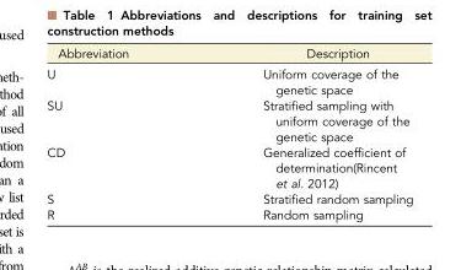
<table><thead><tr><td>Abbreviation</td><td>Description</td></tr></thead><tbody><tr><td>U</td><td>Uniform coverage of the genetic space</td></tr><tr><td>SU</td><td>Stratified sampling with uniform coverage of the genetic space</td></tr><tr><td>CD</td><td>Generalized coefficient of determination(Rincent et al. 2012)</td></tr><tr><td>S</td><td>Stratified random sampling</td></tr><tr><td>R</td><td>Random sampling</td></tr></tbody></table>